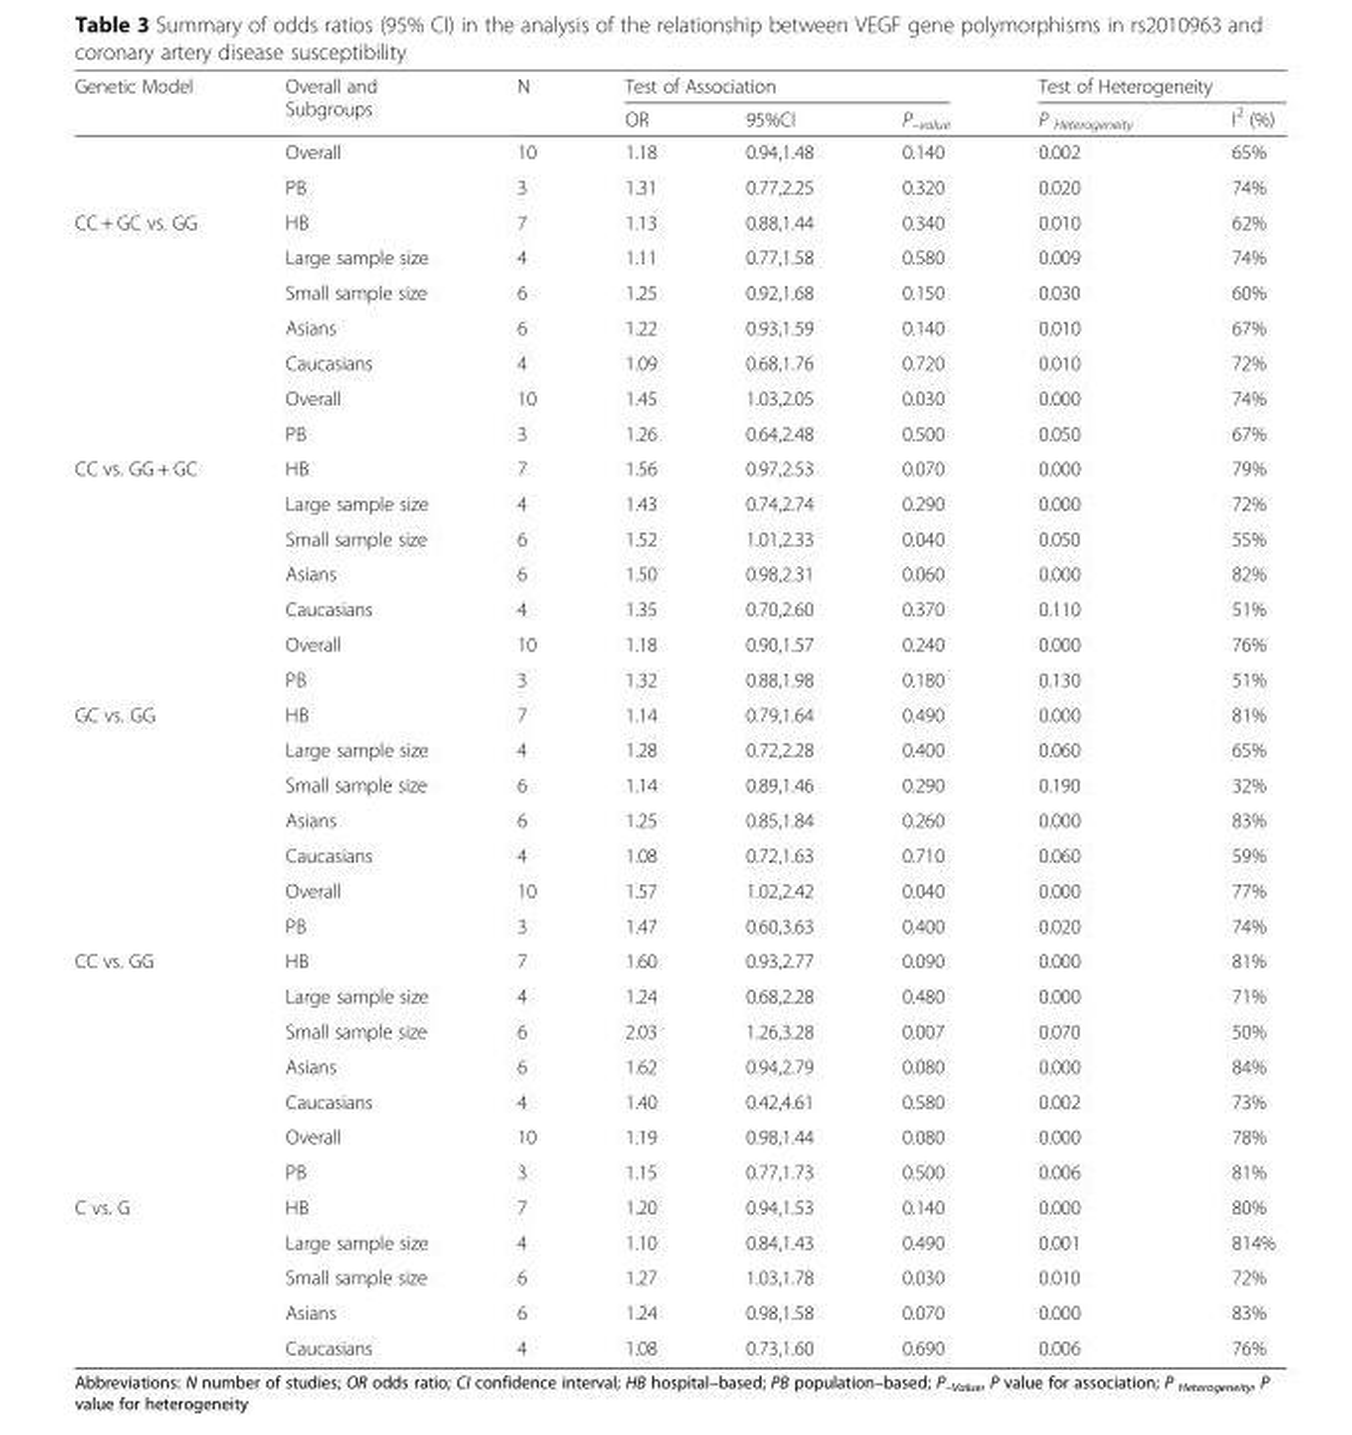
<table><thead><tr><td rowspan="2">Genetic Model</td><td rowspan="2">Overall and Subgroups</td><td rowspan="2">N</td><td colspan="3">Test of Association</td><td colspan="2">Test of Heterogeneity</td></tr><tr><td>OR</td><td>95%CI</td><td>P<sub>–value</sub></td><td>P <sub>Heterogeneity</sub></td><td>I<sup>2</sup> (%)</td></tr></thead><tbody><tr><td></td><td>Overall</td><td>10</td><td>1.18</td><td>0.94,1.48</td><td>0.140</td><td>0.002</td><td>65%</td></tr><tr><td></td><td>PB</td><td>3</td><td>1.31</td><td>0.77,2.25</td><td>0.320</td><td>0.020</td><td>74%</td></tr><tr><td rowspan="7">CC + GC vs. GG</td><td>HB</td><td>7</td><td>1.13</td><td>0.88,1.44</td><td>0.340</td><td>0.010</td><td>62%</td></tr><tr><td>Large sample size</td><td>4</td><td>1.11</td><td>0.77,1.58</td><td>0.580</td><td>0.009</td><td>74%</td></tr><tr><td>Small sample size</td><td>6</td><td>1.25</td><td>0.92,1.68</td><td>0.150</td><td>0.030</td><td>60%</td></tr><tr><td>Asians</td><td>6</td><td>1.22</td><td>0.93,1.59</td><td>0.140</td><td>0.010</td><td>67%</td></tr><tr><td>Caucasians</td><td>4</td><td>1.09</td><td>0.68,1.76</td><td>0.720</td><td>0.010</td><td>72%</td></tr><tr><td>Overall</td><td>10</td><td>1.45</td><td>1.03,2.05</td><td>0.030</td><td>0.000</td><td>74%</td></tr><tr><td>PB</td><td>3</td><td>1.26</td><td>0.64,2.48</td><td>0.500</td><td>0.050</td><td>67%</td></tr><tr><td rowspan="7">CC vs. GG + GC</td><td>HB</td><td>7</td><td>1.56</td><td>0.97,2.53</td><td>0.070</td><td>0.000</td><td>79%</td></tr><tr><td>Large sample size</td><td>4</td><td>1.43</td><td>0.74,2.74</td><td>0.290</td><td>0.000</td><td>72%</td></tr><tr><td>Small sample size</td><td>6</td><td>1.52</td><td>1.01,2.33</td><td>0.040</td><td>0.050</td><td>55%</td></tr><tr><td>Asians</td><td>6</td><td>1.50</td><td>0.98,2.31</td><td>0.060</td><td>0.000</td><td>82%</td></tr><tr><td>Caucasians</td><td>4</td><td>1.35</td><td>0.70,2.60</td><td>0.370</td><td>0.110</td><td>51%</td></tr><tr><td>Overall</td><td>10</td><td>1.18</td><td>0.90,1.57</td><td>0.240</td><td>0.000</td><td>76%</td></tr><tr><td>PB</td><td>3</td><td>1.32</td><td>0.88,1.98</td><td>0.180</td><td>0.130</td><td>51%</td></tr><tr><td rowspan="7">GC vs. GG</td><td>HB</td><td>7</td><td>1.14</td><td>0.79,1.64</td><td>0.490</td><td>0.000</td><td>81%</td></tr><tr><td>Large sample size</td><td>4</td><td>1.28</td><td>0.72,2.28</td><td>0.400</td><td>0.060</td><td>65%</td></tr><tr><td>Small sample size</td><td>6</td><td>1.14</td><td>0.89,1.46</td><td>0.290</td><td>0.190</td><td>32%</td></tr><tr><td>Asians</td><td>6</td><td>1.25</td><td>0.85,1.84</td><td>0.260</td><td>0.000</td><td>83%</td></tr><tr><td>Caucasians</td><td>4</td><td>1.08</td><td>0.72,1.63</td><td>0.710</td><td>0.060</td><td>59%</td></tr><tr><td>Overall</td><td>10</td><td>1.57</td><td>1.02,2.42</td><td>0.040</td><td>0.000</td><td>77%</td></tr><tr><td>PB</td><td>3</td><td>1.47</td><td>0.60,3.63</td><td>0.400</td><td>0.020</td><td>74%</td></tr><tr><td rowspan="7">CC vs. GG</td><td>HB</td><td>7</td><td>1.60</td><td>0.93,2.77</td><td>0.090</td><td>0.000</td><td>81%</td></tr><tr><td>Large sample size</td><td>4</td><td>1.24</td><td>0.68,2.28</td><td>0.480</td><td>0.000</td><td>71%</td></tr><tr><td>Small sample size</td><td>6</td><td>2.03</td><td>1.26,3.28</td><td>0.007</td><td>0.070</td><td>50%</td></tr><tr><td>Asians</td><td>6</td><td>1.62</td><td>0.94,2.79</td><td>0.080</td><td>0.000</td><td>84%</td></tr><tr><td>Caucasians</td><td>4</td><td>1.40</td><td>0.42,4.61</td><td>0.580</td><td>0.002</td><td>73%</td></tr><tr><td>Overall</td><td>10</td><td>1.19</td><td>0.98,1.44</td><td>0.080</td><td>0.000</td><td>78%</td></tr><tr><td>PB</td><td>3</td><td>1.15</td><td>0.77,1.73</td><td>0.500</td><td>0.006</td><td>81%</td></tr><tr><td rowspan="5">C vs. G</td><td>HB</td><td>7</td><td>1.20</td><td>0.94,1.53</td><td>0.140</td><td>0.000</td><td>80%</td></tr><tr><td>Large sample size</td><td>4</td><td>1.10</td><td>0.84,1.43</td><td>0.490</td><td>0.001</td><td>814%</td></tr><tr><td>Small sample size</td><td>6</td><td>1.27</td><td>1.03,1.78</td><td>0.030</td><td>0.010</td><td>72%</td></tr><tr><td>Asians</td><td>6</td><td>1.24</td><td>0.98,1.58</td><td>0.070</td><td>0.000</td><td>83%</td></tr><tr><td>Caucasians</td><td>4</td><td>1.08</td><td>0.73,1.60</td><td>0.690</td><td>0.006</td><td>76%</td></tr></tbody></table>